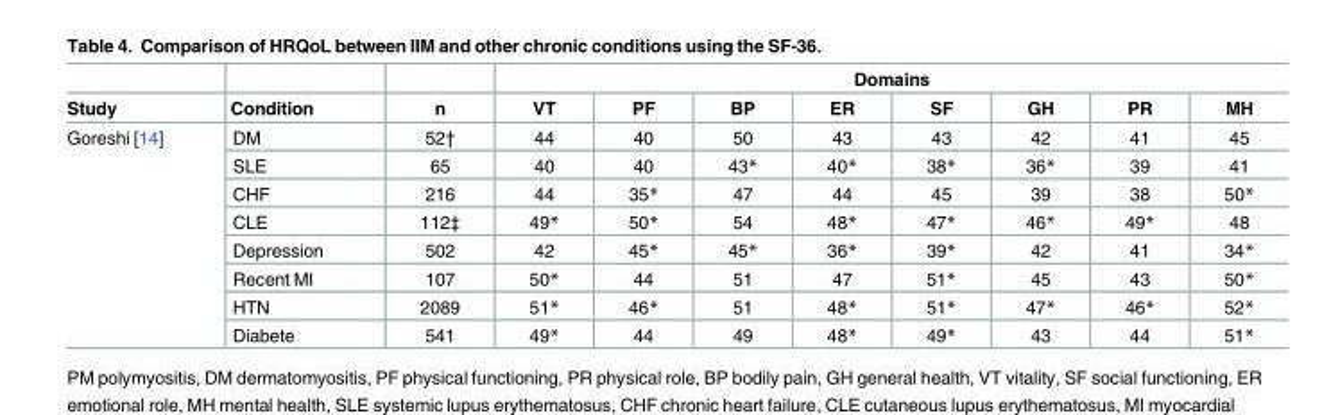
<table><thead><tr><td rowspan="2">Study</td><td rowspan="2">Condition</td><td rowspan="2">n</td><td colspan="8">Domains</td></tr><tr><td>VT</td><td>PF</td><td>BP</td><td>ER</td><td>SF</td><td>GH</td><td>PR</td><td>MH</td></tr></thead><tbody><tr><td rowspan="8">Goreshi [14]</td><td>DM</td><td>52†</td><td>44</td><td>40</td><td>50</td><td>43</td><td>43</td><td>42</td><td>41</td><td>45</td></tr><tr><td>SLE</td><td>65</td><td>40</td><td>40</td><td>43*</td><td>40*</td><td>38*</td><td>36*</td><td>39</td><td>41</td></tr><tr><td>CHF</td><td>216</td><td>44</td><td>35*</td><td>47</td><td>44</td><td>45</td><td>39</td><td>38</td><td>50*</td></tr><tr><td>CLE</td><td>112‡</td><td>49*</td><td>50*</td><td>54</td><td>48*</td><td>47*</td><td>46*</td><td>49*</td><td>48</td></tr><tr><td>Depression</td><td>502</td><td>42</td><td>45*</td><td>45*</td><td>36*</td><td>39*</td><td>42</td><td>41</td><td>34*</td></tr><tr><td>Recent MI</td><td>107</td><td>50*</td><td>44</td><td>51</td><td>47</td><td>51*</td><td>45</td><td>43</td><td>50*</td></tr><tr><td>HTN</td><td>2089</td><td>51*</td><td>46*</td><td>51</td><td>48*</td><td>51*</td><td>47*</td><td>46*</td><td>52*</td></tr><tr><td>Diabete</td><td>541</td><td>49*</td><td>44</td><td>49</td><td>48*</td><td>49*</td><td>43</td><td>44</td><td>51*</td></tr></tbody></table>